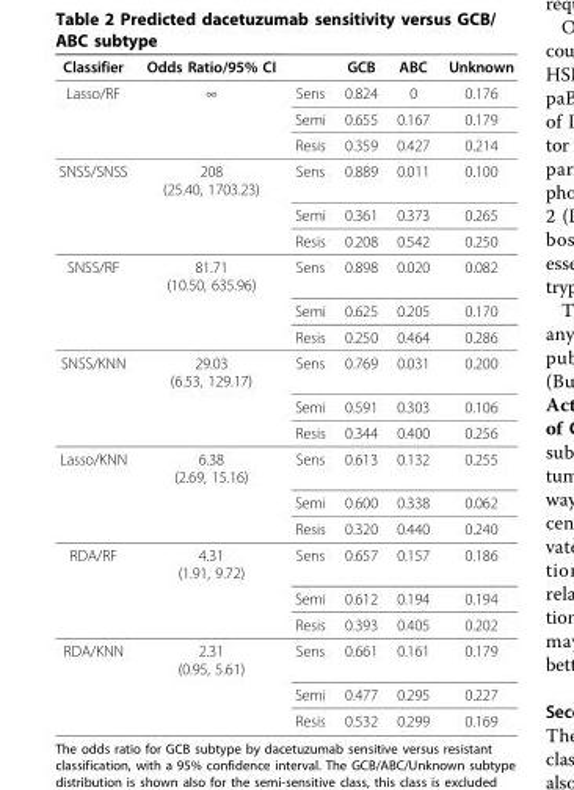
<table><thead><tr><td>Classifier</td><td>Odds Ratio/95% CI</td><td></td><td>GCB</td><td>ABC</td><td>Unknown</td></tr></thead><tbody><tr><td rowspan="3">Lasso/RF</td><td>∞</td><td>Sens</td><td>0.824</td><td>0</td><td>0.176</td></tr><tr><td></td><td>Semi</td><td>0.655</td><td>0.167</td><td>0.179</td></tr><tr><td></td><td>Resis</td><td>0.359</td><td>0.427</td><td>0.214</td></tr><tr><td rowspan="3">SNSS/SNSS</td><td>208 (25.40, 1703.23)</td><td>Sens</td><td>0.889</td><td>0.011</td><td>0.100</td></tr><tr><td></td><td>Semi</td><td>0.361</td><td>0.373</td><td>0.265</td></tr><tr><td></td><td>Resis</td><td>0.208</td><td>0.542</td><td>0.250</td></tr><tr><td rowspan="3">SNSS/RF</td><td>81.71 (10.50, 635.96)</td><td>Sens</td><td>0.898</td><td>0.020</td><td>0.082</td></tr><tr><td></td><td>Semi</td><td>0.625</td><td>0.205</td><td>0.170</td></tr><tr><td></td><td>Resis</td><td>0.250</td><td>0.464</td><td>0.286</td></tr><tr><td rowspan="3">SNSS/KNN</td><td>29.03 (6.53, 129.17)</td><td>Sens</td><td>0.769</td><td>0.031</td><td>0.200</td></tr><tr><td></td><td>Semi</td><td>0.591</td><td>0.303</td><td>0.106</td></tr><tr><td></td><td>Resis</td><td>0.344</td><td>0.400</td><td>0.256</td></tr><tr><td rowspan="3">Lasso/KNN</td><td>6.38 (2.69, 15.16)</td><td>Sens</td><td>0.613</td><td>0.132</td><td>0.255</td></tr><tr><td></td><td>Semi</td><td>0.600</td><td>0.338</td><td>0.062</td></tr><tr><td></td><td>Resis</td><td>0.320</td><td>0.440</td><td>0.240</td></tr><tr><td rowspan="3">RDA/RF</td><td>4.31 (1.91, 9.72)</td><td>Sens</td><td>0.657</td><td>0.157</td><td>0.186</td></tr><tr><td></td><td>Semi</td><td>0.612</td><td>0.194</td><td>0.194</td></tr><tr><td></td><td>Resis</td><td>0.393</td><td>0.405</td><td>0.202</td></tr><tr><td rowspan="3">RDA/KNN</td><td>2.31 (0.95, 5.61)</td><td>Sens</td><td>0.661</td><td>0.161</td><td>0.179</td></tr><tr><td></td><td>Semi</td><td>0.477</td><td>0.295</td><td>0.227</td></tr><tr><td></td><td>Resis</td><td>0.532</td><td>0.299</td><td>0.169</td></tr></tbody></table>